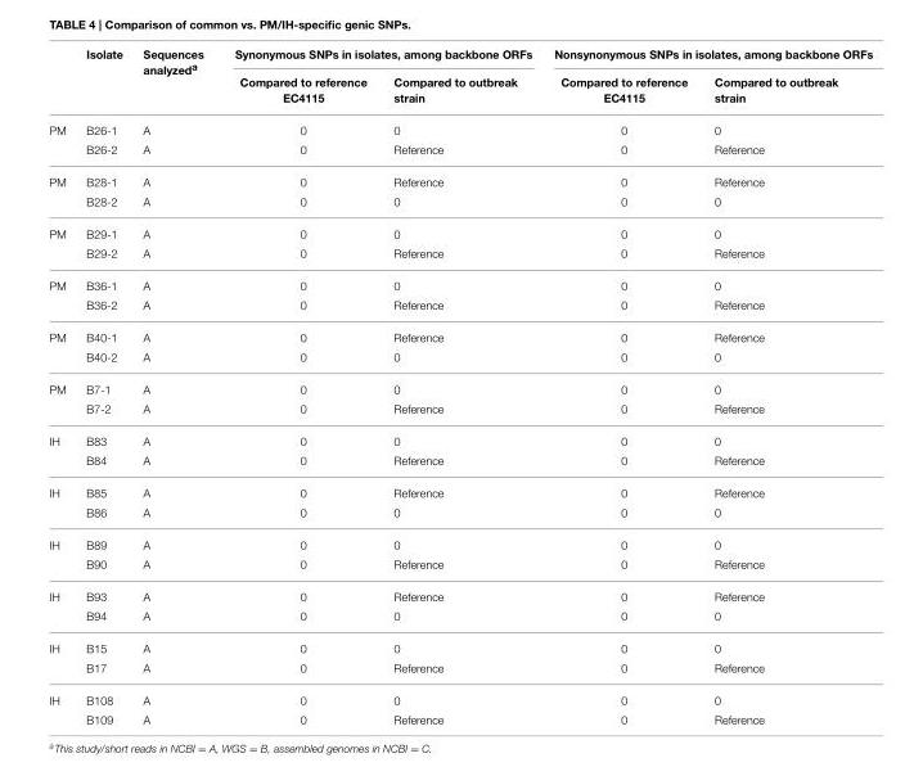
<table><thead><tr><td rowspan="2"></td><td rowspan="2">Isolate</td><td rowspan="2">Sequences analyzed<sup>a</sup></td><td colspan="2">Synonymous SNPs in isolates, among backbone ORFs</td><td colspan="2">Nonsynonymous SNPs in isolates, among backbone ORFs</td></tr><tr><td>Compared to reference EC4115</td><td>Compared to outbreak strain</td><td>Compared to reference EC4115</td><td>Compared to outbreak strain</td></tr></thead><tbody><tr><td rowspan="2">PM</td><td>B26-1</td><td>A</td><td>0</td><td>0</td><td>0</td><td>0</td></tr><tr><td>B26-2</td><td>A</td><td>0</td><td>Reference</td><td>0</td><td>Reference</td></tr><tr><td rowspan="2">PM</td><td>B28-1</td><td>A</td><td>0</td><td>Reference</td><td>0</td><td>Reference</td></tr><tr><td>B28-2</td><td>A</td><td>0</td><td>0</td><td>0</td><td>0</td></tr><tr><td rowspan="2">PM</td><td>B29-1</td><td>A</td><td>0</td><td>0</td><td>0</td><td>0</td></tr><tr><td>B29-2</td><td>A</td><td>0</td><td>Reference</td><td>0</td><td>Reference</td></tr><tr><td rowspan="2">PM</td><td>B36-1</td><td>A</td><td>0</td><td>0</td><td>0</td><td>0</td></tr><tr><td>B36-2</td><td>A</td><td>0</td><td>Reference</td><td>0</td><td>Reference</td></tr><tr><td rowspan="2">PM</td><td>B40-1</td><td>A</td><td>0</td><td>Reference</td><td>0</td><td>Reference</td></tr><tr><td>B40-2</td><td>A</td><td>0</td><td>0</td><td>0</td><td>0</td></tr><tr><td rowspan="2">PM</td><td>B7-1</td><td>A</td><td>0</td><td>0</td><td>0</td><td>0</td></tr><tr><td>B7-2</td><td>A</td><td>0</td><td>Reference</td><td>0</td><td>Reference</td></tr><tr><td rowspan="2">IH</td><td>B83</td><td>A</td><td>0</td><td>0</td><td>0</td><td>0</td></tr><tr><td>B84</td><td>A</td><td>0</td><td>Reference</td><td>0</td><td>Reference</td></tr><tr><td rowspan="2">IH</td><td>B85</td><td>A</td><td>0</td><td>Reference</td><td>0</td><td>Reference</td></tr><tr><td>B86</td><td>A</td><td>0</td><td>0</td><td>0</td><td>0</td></tr><tr><td rowspan="2">IH</td><td>B89</td><td>A</td><td>0</td><td>0</td><td>0</td><td>0</td></tr><tr><td>B90</td><td>A</td><td>0</td><td>Reference</td><td>0</td><td>Reference</td></tr><tr><td rowspan="2">IH</td><td>B93</td><td>A</td><td>0</td><td>Reference</td><td>0</td><td>Reference</td></tr><tr><td>B94</td><td>A</td><td>0</td><td>0</td><td>0</td><td>0</td></tr><tr><td rowspan="2">IH</td><td>B15</td><td>A</td><td>0</td><td>0</td><td>0</td><td>0</td></tr><tr><td>B17</td><td>A</td><td>0</td><td>Reference</td><td>0</td><td>Reference</td></tr><tr><td rowspan="2">IH</td><td>B108</td><td>A</td><td>0</td><td>0</td><td>0</td><td>0</td></tr><tr><td>B109</td><td>A</td><td>0</td><td>Reference</td><td>0</td><td>Reference</td></tr></tbody></table>